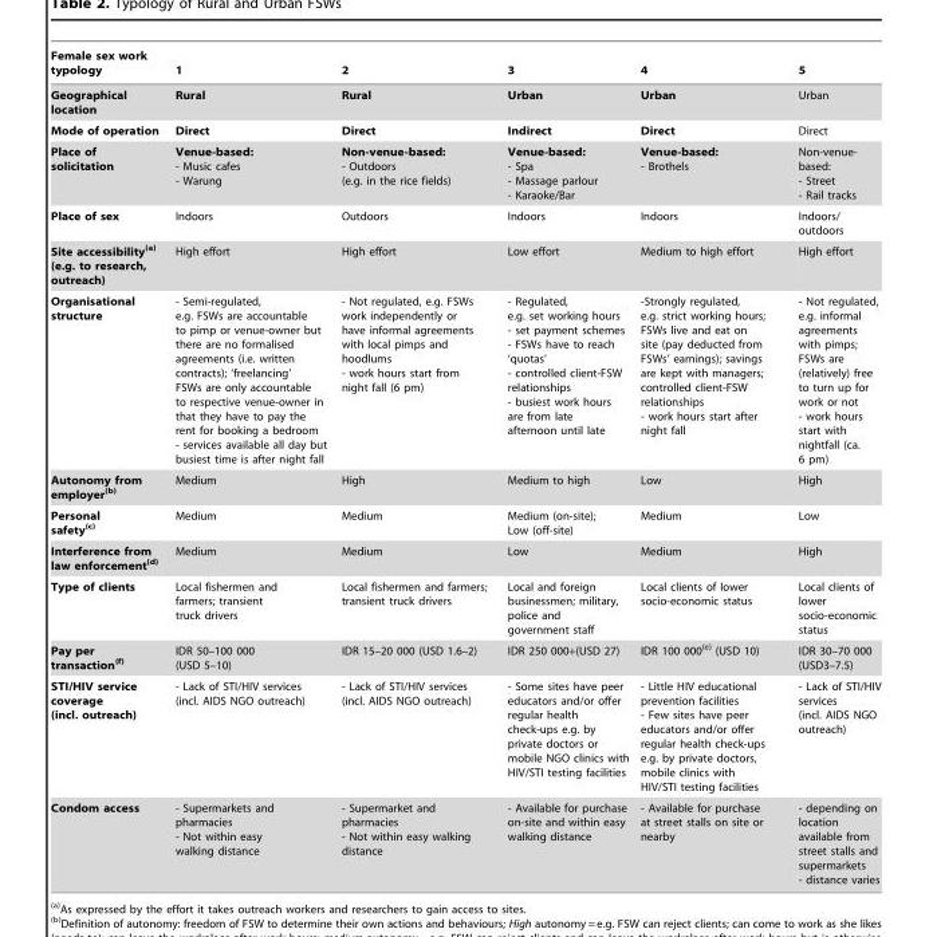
<table><thead><tr><td>Female sex work typology</td><td>1</td><td>2</td><td>3</td><td>4</td><td>5</td></tr></thead><tbody><tr><td>Geographical location</td><td>Rural</td><td>Rural</td><td>Urban</td><td>Urban</td><td>Urban</td></tr><tr><td>Mode of operation</td><td>Direct</td><td>Direct</td><td>Indirect</td><td>Direct</td><td>Direct</td></tr><tr><td>Place of solicitation</td><td>Venue-based: - Music cafes - Warung</td><td>Non-venue-based: - Outdoors (e.g. in the rice fields)</td><td>Venue-based: - Spa - Massage parlour - Karaoke/Bar</td><td>Venue-based: - Brothels</td><td>Non-venue- based: - Street - Rail tracks</td></tr><tr><td>Place of sex</td><td>Indoors</td><td>Outdoors</td><td>Indoors</td><td>Indoors</td><td>Indoors/ outdoors</td></tr><tr><td>Site accessibility(a) (e.g. to research, outreach)</td><td>High effort</td><td>High effort</td><td>Low effort</td><td>Medium to high effort</td><td>High effort</td></tr><tr><td>Organisational structure</td><td>- Semi-regulated, e.g. FSWs are accountable to pimp or venue-owner but there are no formalised agreements (i.e. written contracts); ‘freelancing’ FSWs are only accountable to respective venue-owner in that they have to pay the rent for booking a bedroom - services available all day but busiest time is after night fall</td><td>- Not regulated, e.g. FSWs work independently or have informal agreements with local pimps and hoodlums - work hours start from night fall (6 pm)</td><td>- Regulated, e.g. set working hours - set payment schemes - FSWs have to reach ‘quotas’ - controlled client-FSW relationships - busiest work hours are from late afternoon until late</td><td>-Strongly regulated, e.g. strict working hours; FSWs live and eat on site (pay deducted from FSWs’ earnings); savings are kept with managers; controlled client-FSW relationships - work hours start after night fall</td><td>- Not regulated, e.g. informal agreements with pimps; FSWs are (relatively) free to turn up for work or not - work hours start with nightfall (ca. 6 pm)</td></tr><tr><td>Autonomy from employer(b)</td><td>Medium</td><td>High</td><td>Medium to high</td><td>Low</td><td>High</td></tr><tr><td>Personal safety(c)</td><td>Medium</td><td>Medium</td><td>Medium (on-site); Low (off-site)</td><td>Medium</td><td>Low</td></tr><tr><td>Interference from law enforcement(d)</td><td>Medium</td><td>Medium</td><td>Low</td><td>Medium</td><td>High</td></tr><tr><td>Type of clients</td><td>Local fishermen and farmers; transient truck drivers</td><td>Local fishermen and farmers; transient truck drivers</td><td>Local and foreign businessmen; military, police and government staff</td><td>Local clients of lower socio-economic status</td><td>Local clients of lower socio-economic status</td></tr><tr><td>Pay per transaction(f)</td><td>IDR 50–100 000 (USD 5–10)</td><td>IDR 15–20 000 (USD 1.6–2)</td><td>IDR 250 000+(USD 27)</td><td>IDR 100 000(e) (USD 10)</td><td>IDR 30–70 000 (USD3–7.5)</td></tr><tr><td>STI/HIV service coverage (incl. outreach)</td><td>- Lack of STI/HIV services (incl. AIDS NGO outreach)</td><td>- Lack of STI/HIV services (incl. AIDS NGO outreach)</td><td>- Some sites have peer educators and/or offer regular health check-ups e.g. by private doctors or mobile NGO clinics with HIV/STI testing facilities</td><td>- Little HIV educational prevention facilities - Few sites have peer educators and/or offer regular health check-ups e.g. by private doctors, mobile clinics with HIV/STI testing facilities</td><td>- Lack of STI/HIV services (incl. AIDS NGO outreach)</td></tr><tr><td>Condom access</td><td>- Supermarkets and pharmacies - Not within easy walking distance</td><td>- Supermarket and pharmacies - Not within easy walking distance</td><td>- Available for purchase on-site and within easy walking distance</td><td>- Available for purchase at street stalls on site or nearby</td><td>- depending on location available from street stalls and supermarkets - distance varies</td></tr></tbody></table>